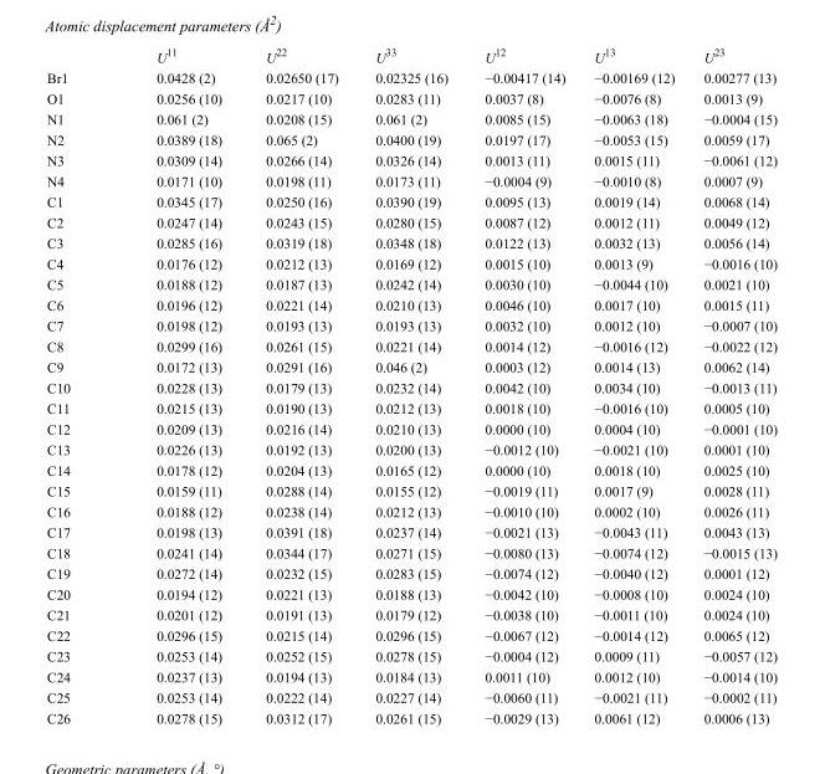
<table><thead><tr><td></td><td>U<sup>11</sup></td><td>U<sup>22</sup></td><td>U<sup>33</sup></td><td>U<sup>12</sup></td><td>U<sup>13</sup></td><td>U<sup>23</sup></td></tr></thead><tbody><tr><td>Br1</td><td>0.0428 (2)</td><td>0.02650 (17)</td><td>0.02325 (16)</td><td>−0.00417 (14)</td><td>−0.00169 (12)</td><td>0.00277 (13)</td></tr><tr><td>O1</td><td>0.0256 (10)</td><td>0.0217 (10)</td><td>0.0283 (11)</td><td>0.0037 (8)</td><td>−0.0076 (8)</td><td>0.0013 (9)</td></tr><tr><td>N1</td><td>0.061 (2)</td><td>0.0208 (15)</td><td>0.061 (2)</td><td>0.0085 (15)</td><td>−0.0063 (18)</td><td>−0.0004 (15)</td></tr><tr><td>N2</td><td>0.0389 (18)</td><td>0.065 (2)</td><td>0.0400 (19)</td><td>0.0197 (17)</td><td>−0.0053 (15)</td><td>0.0059 (17)</td></tr><tr><td>N3</td><td>0.0309 (14)</td><td>0.0266 (14)</td><td>0.0326 (14)</td><td>0.0013 (11)</td><td>0.0015 (11)</td><td>−0.0061 (12)</td></tr><tr><td>N4</td><td>0.0171 (10)</td><td>0.0198 (11)</td><td>0.0173 (11)</td><td>−0.0004 (9)</td><td>−0.0010 (8)</td><td>0.0007 (9)</td></tr><tr><td>C1</td><td>0.0345 (17)</td><td>0.0250 (16)</td><td>0.0390 (19)</td><td>0.0095 (13)</td><td>0.0019 (14)</td><td>0.0068 (14)</td></tr><tr><td>C2</td><td>0.0247 (14)</td><td>0.0243 (15)</td><td>0.0280 (15)</td><td>0.0087 (12)</td><td>0.0012 (11)</td><td>0.0049 (12)</td></tr><tr><td>C3</td><td>0.0285 (16)</td><td>0.0319 (18)</td><td>0.0348 (18)</td><td>0.0122 (13)</td><td>0.0032 (13)</td><td>0.0056 (14)</td></tr><tr><td>C4</td><td>0.0176 (12)</td><td>0.0212 (13)</td><td>0.0169 (12)</td><td>0.0015 (10)</td><td>0.0013 (9)</td><td>−0.0016 (10)</td></tr><tr><td>C5</td><td>0.0188 (12)</td><td>0.0187 (13)</td><td>0.0242 (14)</td><td>0.0030 (10)</td><td>−0.0044 (10)</td><td>0.0021 (10)</td></tr><tr><td>C6</td><td>0.0196 (12)</td><td>0.0221 (14)</td><td>0.0210 (13)</td><td>0.0046 (10)</td><td>0.0017 (10)</td><td>0.0015 (11)</td></tr><tr><td>C7</td><td>0.0198 (12)</td><td>0.0193 (13)</td><td>0.0193 (13)</td><td>0.0032 (10)</td><td>0.0012 (10)</td><td>−0.0007 (10)</td></tr><tr><td>C8</td><td>0.0299 (16)</td><td>0.0261 (15)</td><td>0.0221 (14)</td><td>0.0014 (12)</td><td>−0.0016 (12)</td><td>−0.0022 (12)</td></tr><tr><td>C9</td><td>0.0172 (13)</td><td>0.0291 (16)</td><td>0.046 (2)</td><td>0.0003 (12)</td><td>0.0014 (13)</td><td>0.0062 (14)</td></tr><tr><td>C10</td><td>0.0228 (13)</td><td>0.0179 (13)</td><td>0.0232 (14)</td><td>0.0042 (10)</td><td>0.0034 (10)</td><td>−0.0013 (11)</td></tr><tr><td>C11</td><td>0.0215 (13)</td><td>0.0190 (13)</td><td>0.0212 (13)</td><td>0.0018 (10)</td><td>−0.0016 (10)</td><td>0.0005 (10)</td></tr><tr><td>C12</td><td>0.0209 (13)</td><td>0.0216 (14)</td><td>0.0210 (13)</td><td>0.0000 (10)</td><td>0.0004 (10)</td><td>−0.0001 (10)</td></tr><tr><td>C13</td><td>0.0226 (13)</td><td>0.0192 (13)</td><td>0.0200 (13)</td><td>−0.0012 (10)</td><td>−0.0021 (10)</td><td>0.0001 (10)</td></tr><tr><td>C14</td><td>0.0178 (12)</td><td>0.0204 (13)</td><td>0.0165 (12)</td><td>0.0000 (10)</td><td>0.0018 (10)</td><td>0.0025 (10)</td></tr><tr><td>C15</td><td>0.0159 (11)</td><td>0.0288 (14)</td><td>0.0155 (12)</td><td>−0.0019 (11)</td><td>0.0017 (9)</td><td>0.0028 (11)</td></tr><tr><td>C16</td><td>0.0188 (12)</td><td>0.0238 (14)</td><td>0.0212 (13)</td><td>−0.0010 (10)</td><td>0.0002 (10)</td><td>0.0026 (11)</td></tr><tr><td>C17</td><td>0.0198 (13)</td><td>0.0391 (18)</td><td>0.0237 (14)</td><td>−0.0021 (13)</td><td>−0.0043 (11)</td><td>0.0043 (13)</td></tr><tr><td>C18</td><td>0.0241 (14)</td><td>0.0344 (17)</td><td>0.0271 (15)</td><td>−0.0080 (13)</td><td>−0.0074 (12)</td><td>−0.0015 (13)</td></tr><tr><td>C19</td><td>0.0272 (14)</td><td>0.0232 (15)</td><td>0.0283 (15)</td><td>−0.0074 (12)</td><td>−0.0040 (12)</td><td>0.0001 (12)</td></tr><tr><td>C20</td><td>0.0194 (12)</td><td>0.0221 (13)</td><td>0.0188 (13)</td><td>−0.0042 (10)</td><td>−0.0008 (10)</td><td>0.0024 (10)</td></tr><tr><td>C21</td><td>0.0201 (12)</td><td>0.0191 (13)</td><td>0.0179 (12)</td><td>−0.0038 (10)</td><td>−0.0011 (10)</td><td>0.0024 (10)</td></tr><tr><td>C22</td><td>0.0296 (15)</td><td>0.0215 (14)</td><td>0.0296 (15)</td><td>−0.0067 (12)</td><td>−0.0014 (12)</td><td>0.0065 (12)</td></tr><tr><td>C23</td><td>0.0253 (14)</td><td>0.0252 (15)</td><td>0.0278 (15)</td><td>−0.0004 (12)</td><td>0.0009 (11)</td><td>−0.0057 (12)</td></tr><tr><td>C24</td><td>0.0237 (13)</td><td>0.0194 (13)</td><td>0.0184 (13)</td><td>0.0011 (10)</td><td>0.0012 (10)</td><td>−0.0014 (10)</td></tr><tr><td>C25</td><td>0.0253 (14)</td><td>0.0222 (14)</td><td>0.0227 (14)</td><td>−0.0060 (11)</td><td>−0.0021 (11)</td><td>−0.0002 (11)</td></tr><tr><td>C26</td><td>0.0278 (15)</td><td>0.0312 (17)</td><td>0.0261 (15)</td><td>−0.0029 (13)</td><td>0.0061 (12)</td><td>0.0006 (13)</td></tr></tbody></table>